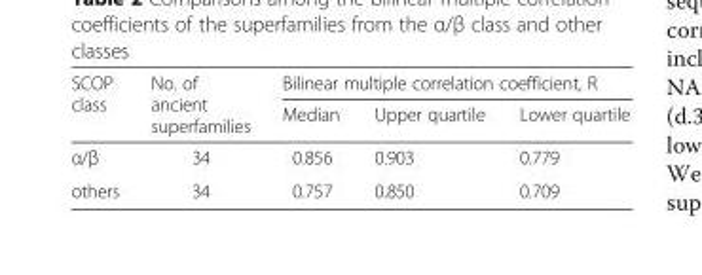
<table><thead><tr><td rowspan="2">SCOP class</td><td rowspan="2">No. of ancient superfamilies</td><td colspan="3">Bilinear multiple correlation coefficient, R</td></tr><tr><td>Median</td><td>Upper quartile</td><td>Lower quartile</td></tr></thead><tbody><tr><td>α/β</td><td>34</td><td>0.856</td><td>0.903</td><td>0.779</td></tr><tr><td>others</td><td>34</td><td>0.757</td><td>0.850</td><td>0.709</td></tr></tbody></table>